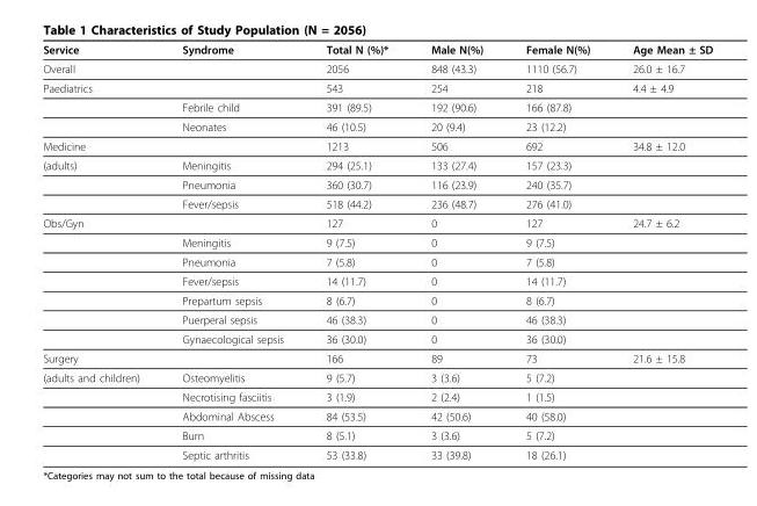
<table><thead><tr><td>Service</td><td>Syndrome</td><td>Total N (%)*</td><td>Male N(%)</td><td>Female N(%)</td><td>Age Mean ± SD</td></tr></thead><tbody><tr><td>Overall</td><td></td><td>2056</td><td>848 (43.3)</td><td>1110 (56.7)</td><td>26.0 ± 16.7</td></tr><tr><td rowspan="3">Paediatrics</td><td></td><td>543</td><td>254</td><td>218</td><td>4.4 ± 4.9</td></tr><tr><td>Febrile child</td><td>391 (89.5)</td><td>192 (90.6)</td><td>166 (87.8)</td><td></td></tr><tr><td>Neonates</td><td>46 (10.5)</td><td>20 (9.4)</td><td>23 (12.2)</td><td></td></tr><tr><td>Medicine</td><td></td><td>1213</td><td>506</td><td>692</td><td>34.8 ± 12.0</td></tr><tr><td rowspan="3">(adults)</td><td>Meningitis</td><td>294 (25.1)</td><td>133 (27.4)</td><td>157 (23.3)</td><td></td></tr><tr><td>Pneumonia</td><td>360 (30.7)</td><td>116 (23.9)</td><td>240 (35.7)</td><td></td></tr><tr><td>Fever/sepsis</td><td>518 (44.2)</td><td>236 (48.7)</td><td>276 (41.0)</td><td></td></tr><tr><td rowspan="7">Obs/Gyn</td><td></td><td>127</td><td>0</td><td>127</td><td>24.7 ± 6.2</td></tr><tr><td>Meningitis</td><td>9 (7.5)</td><td>0</td><td>9 (7.5)</td><td></td></tr><tr><td>Pneumonia</td><td>7 (5.8)</td><td>0</td><td>7 (5.8)</td><td></td></tr><tr><td>Fever/sepsis</td><td>14 (11.7)</td><td>0</td><td>14 (11.7)</td><td></td></tr><tr><td>Prepartum sepsis</td><td>8 (6.7)</td><td>0</td><td>8 (6.7)</td><td></td></tr><tr><td>Puerperal sepsis</td><td>46 (38.3)</td><td>0</td><td>46 (38.3)</td><td></td></tr><tr><td>Gynaecological sepsis</td><td>36 (30.0)</td><td>0</td><td>36 (30.0)</td><td></td></tr><tr><td>Surgery</td><td></td><td>166</td><td>89</td><td>73</td><td>21.6 ± 15.8</td></tr><tr><td rowspan="5">(adults and children)</td><td>Osteomyelitis</td><td>9 (5.7)</td><td>3 (3.6)</td><td>5 (7.2)</td><td></td></tr><tr><td>Necrotising fasciitis</td><td>3 (1.9)</td><td>2 (2.4)</td><td>1 (1.5)</td><td></td></tr><tr><td>Abdominal Abscess</td><td>84 (53.5)</td><td>42 (50.6)</td><td>40 (58.0)</td><td></td></tr><tr><td>Burn</td><td>8 (5.1)</td><td>3 (3.6)</td><td>5 (7.2)</td><td></td></tr><tr><td>Septic arthritis</td><td>53 (33.8)</td><td>33 (39.8)</td><td>18 (26.1)</td><td></td></tr></tbody></table>